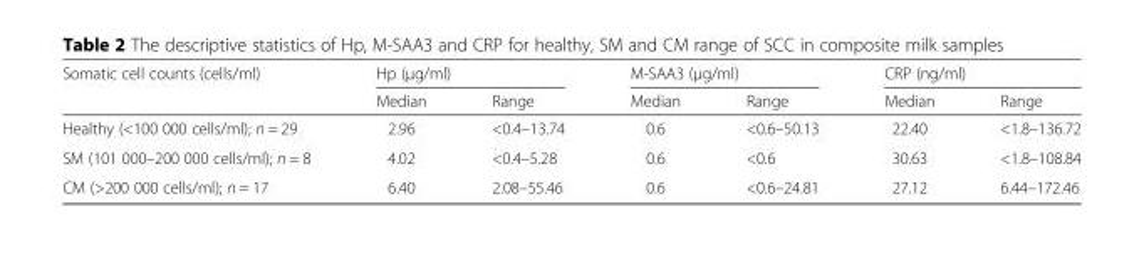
<table><thead><tr><td rowspan="2">Somatic cell counts (cells/ml)</td><td colspan="2">Hp (μg/ml)</td><td colspan="2">M-SAA3 (μg/ml)</td><td colspan="2">CRP (ng/ml)</td></tr><tr><td>Median</td><td>Range</td><td>Median</td><td>Range</td><td>Median</td><td>Range</td></tr></thead><tbody><tr><td>Healthy (&lt;100 000 cells/ml); n = 29</td><td>2.96</td><td>&lt;0.4–13.74</td><td>0.6</td><td>&lt;0.6–50.13</td><td>22.40</td><td>&lt;1.8–136.72</td></tr><tr><td>SM (101 000–200 000 cells/ml); n = 8</td><td>4.02</td><td>&lt;0.4–5.28</td><td>0.6</td><td>&lt;0.6</td><td>30.63</td><td>&lt;1.8–108.84</td></tr><tr><td>CM (&gt;200 000 cells/ml); n = 17</td><td>6.40</td><td>2.08–55.46</td><td>0.6</td><td>&lt;0.6–24.81</td><td>27.12</td><td>6.44–172.46</td></tr></tbody></table>